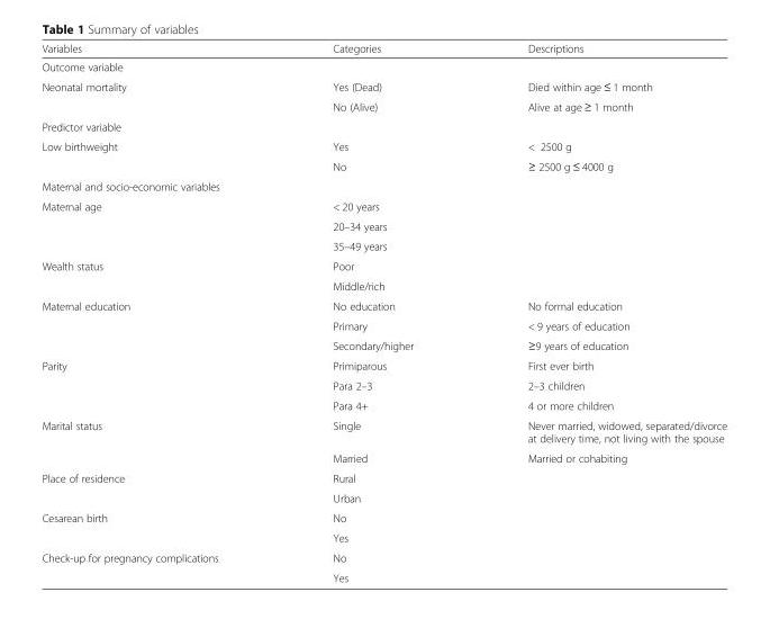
<table><thead><tr><td>Variables</td><td>Categories</td><td>Descriptions</td></tr></thead><tbody><tr><td colspan="3">Outcome variable</td></tr><tr><td rowspan="2">Neonatal mortality</td><td>Yes (Dead)</td><td>Died within age ≤ 1 month</td></tr><tr><td>No (Alive)</td><td>Alive at age ≥ 1 month</td></tr><tr><td colspan="3">Predictor variable</td></tr><tr><td rowspan="2">Low birthweight</td><td>Yes</td><td>&lt; 2500 g</td></tr><tr><td>No</td><td>≥ 2500 g ≤ 4000 g</td></tr><tr><td colspan="3">Maternal and socio-economic variables</td></tr><tr><td rowspan="3">Maternal age</td><td>&lt; 20 years</td><td></td></tr><tr><td>20–34 years</td><td></td></tr><tr><td>35–49 years</td><td></td></tr><tr><td rowspan="2">Wealth status</td><td>Poor</td><td></td></tr><tr><td>Middle/rich</td><td></td></tr><tr><td rowspan="3">Maternal education</td><td>No education</td><td>No formal education</td></tr><tr><td>Primary</td><td>&lt; 9 years of education</td></tr><tr><td>Secondary/higher</td><td>≥9 years of education</td></tr><tr><td rowspan="3">Parity</td><td>Primiparous</td><td>First ever birth</td></tr><tr><td>Para 2–3</td><td>2–3 children</td></tr><tr><td>Para 4+</td><td>4 or more children</td></tr><tr><td rowspan="2">Marital status</td><td>Single</td><td>Never married, widowed, separated/divorce at delivery time, not living with the spouse</td></tr><tr><td>Married</td><td>Married or cohabiting</td></tr><tr><td rowspan="2">Place of residence</td><td>Rural</td><td></td></tr><tr><td>Urban</td><td></td></tr><tr><td rowspan="2">Cesarean birth</td><td>No</td><td></td></tr><tr><td>Yes</td><td></td></tr><tr><td rowspan="2">Check-up for pregnancy complications</td><td>No</td><td></td></tr><tr><td>Yes</td><td></td></tr></tbody></table>